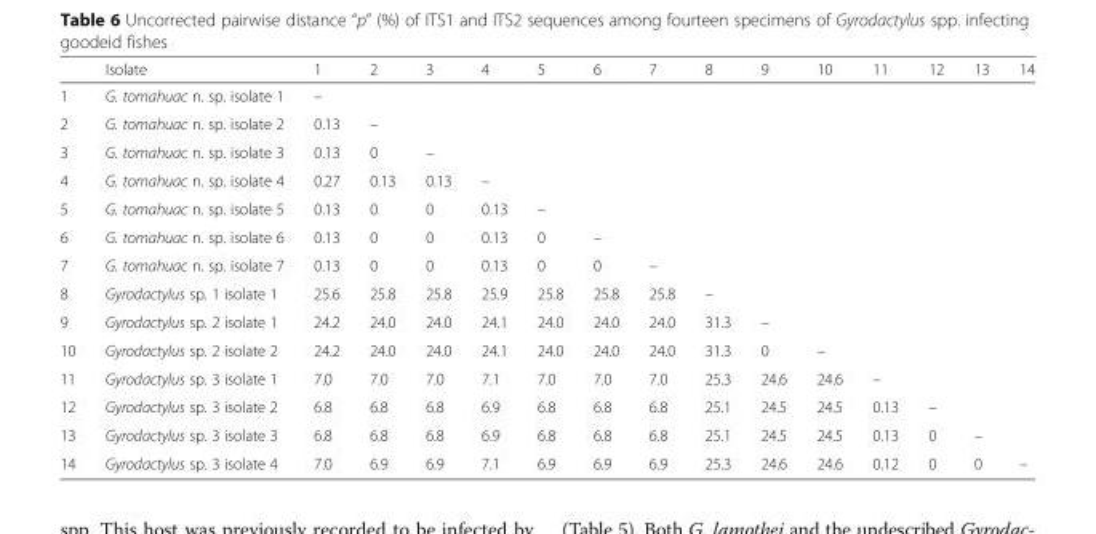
<table><thead><tr><td></td><td>Isolate</td><td>1</td><td>2</td><td>3</td><td>4</td><td>5</td><td>6</td><td>7</td><td>8</td><td>9</td><td>10</td><td>11</td><td>12</td><td>13</td><td>14</td></tr></thead><tbody><tr><td>1</td><td>G. tomahuac n. sp. isolate 1</td><td>–</td><td></td><td></td><td></td><td></td><td></td><td></td><td></td><td></td><td></td><td></td><td></td><td></td><td></td></tr><tr><td>2</td><td>G. tomahuac n. sp. isolate 2</td><td>0.13</td><td>–</td><td></td><td></td><td></td><td></td><td></td><td></td><td></td><td></td><td></td><td></td><td></td><td></td></tr><tr><td>3</td><td>G. tomahuac n. sp. isolate 3</td><td>0.13</td><td>0</td><td>–</td><td></td><td></td><td></td><td></td><td></td><td></td><td></td><td></td><td></td><td></td><td></td></tr><tr><td>4</td><td>G. tomahuac n. sp. isolate 4</td><td>0.27</td><td>0.13</td><td>0.13</td><td>–</td><td></td><td></td><td></td><td></td><td></td><td></td><td></td><td></td><td></td><td></td></tr><tr><td>5</td><td>G. tomahuac n. sp. isolate 5</td><td>0.13</td><td>0</td><td>0</td><td>0.13</td><td>–</td><td></td><td></td><td></td><td></td><td></td><td></td><td></td><td></td><td></td></tr><tr><td>6</td><td>G. tomahuac n. sp. isolate 6</td><td>0.13</td><td>0</td><td>0</td><td>0.13</td><td>0</td><td>–</td><td></td><td></td><td></td><td></td><td></td><td></td><td></td><td></td></tr><tr><td>7</td><td>G. tomahuac n. sp. isolate 7</td><td>0.13</td><td>0</td><td>0</td><td>0.13</td><td>0</td><td>0</td><td>–</td><td></td><td></td><td></td><td></td><td></td><td></td><td></td></tr><tr><td>8</td><td>Gyrodactylus sp. 1 isolate 1</td><td>25.6</td><td>25.8</td><td>25.8</td><td>25.9</td><td>25.8</td><td>25.8</td><td>25.8</td><td>–</td><td></td><td></td><td></td><td></td><td></td><td></td></tr><tr><td>9</td><td>Gyrodactylus sp. 2 isolate 1</td><td>24.2</td><td>24.0</td><td>24.0</td><td>24.1</td><td>24.0</td><td>24.0</td><td>24.0</td><td>31.3</td><td>–</td><td></td><td></td><td></td><td></td><td></td></tr><tr><td>10</td><td>Gyrodactylus sp. 2 isolate 2</td><td>24.2</td><td>24.0</td><td>24.0</td><td>24.1</td><td>24.0</td><td>24.0</td><td>24.0</td><td>31.3</td><td>0</td><td>–</td><td></td><td></td><td></td><td></td></tr><tr><td>11</td><td>Gyrodactylus sp. 3 isolate 1</td><td>7.0</td><td>7.0</td><td>7.0</td><td>7.1</td><td>7.0</td><td>7.0</td><td>7.0</td><td>25.3</td><td>24.6</td><td>24.6</td><td>–</td><td></td><td></td><td></td></tr><tr><td>12</td><td>Gyrodactylus sp. 3 isolate 2</td><td>6.8</td><td>6.8</td><td>6.8</td><td>6.9</td><td>6.8</td><td>6.8</td><td>6.8</td><td>25.1</td><td>24.5</td><td>24.5</td><td>0.13</td><td>–</td><td></td><td></td></tr><tr><td>13</td><td>Gyrodactylus sp. 3 isolate 3</td><td>6.8</td><td>6.8</td><td>6.8</td><td>6.9</td><td>6.8</td><td>6.8</td><td>6.8</td><td>25.1</td><td>24.5</td><td>24.5</td><td>0.13</td><td>0</td><td>–</td><td></td></tr><tr><td>14</td><td>Gyrodactylus sp. 3 isolate 4</td><td>7.0</td><td>6.9</td><td>6.9</td><td>7.1</td><td>6.9</td><td>6.9</td><td>6.9</td><td>25.3</td><td>24.6</td><td>24.6</td><td>0.12</td><td>0</td><td>0</td><td>–</td></tr></tbody></table>